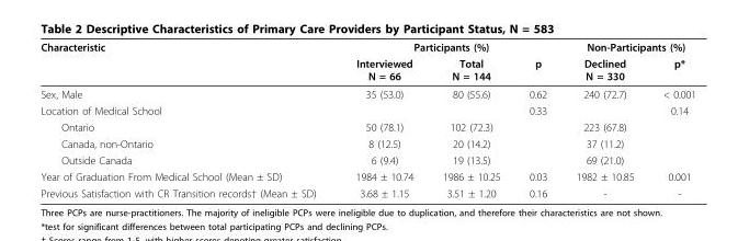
<table><thead><tr><td rowspan="2">Characteristic</td><td colspan="3">Participants (%)</td><td colspan="2">Non-Participants (%)</td></tr><tr><td>Interviewed N = 66</td><td>Total N = 144</td><td>p</td><td>Declined N = 330</td><td>p*</td></tr></thead><tbody><tr><td>Sex, Male</td><td>35 (53.0)</td><td>80 (55.6)</td><td>0.62</td><td>240 (72.7)</td><td>&lt; 0.001</td></tr><tr><td>Location of Medical School</td><td></td><td></td><td>0.33</td><td></td><td>0.14</td></tr><tr><td>Ontario</td><td>50 (78.1)</td><td>102 (72.3)</td><td></td><td>223 (67.8)</td><td></td></tr><tr><td>Canada, non-Ontario</td><td>8 (12.5)</td><td>20 (14.2)</td><td></td><td>37 (11.2)</td><td></td></tr><tr><td>Outside Canada</td><td>6 (9.4)</td><td>19 (13.5)</td><td></td><td>69 (21.0)</td><td></td></tr><tr><td>Year of Graduation From Medical School (Mean ± SD)</td><td>1984 ± 10.74</td><td>1986 ± 10.25</td><td>0.03</td><td>1982 ± 10.85</td><td>0.001</td></tr><tr><td>Previous Satisfaction with CR Transition records† (Mean ± SD)</td><td>3.68 ± 1.15</td><td>3.51 ± 1.20</td><td>0.16</td><td>-</td><td>-</td></tr></tbody></table>